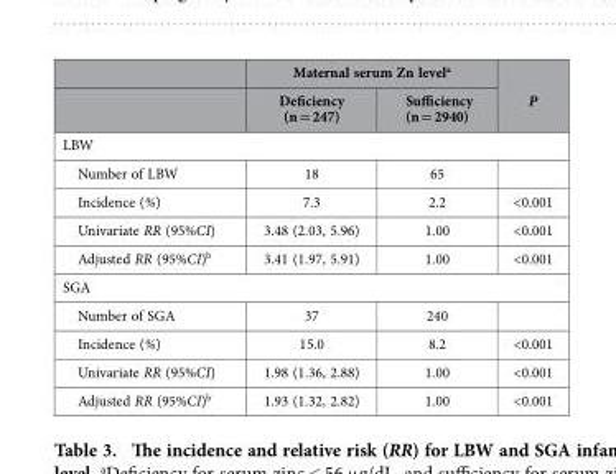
<table><thead><tr><td rowspan="2"></td><td colspan="2">Maternal serum Zn level<sup>a</sup></td><td rowspan="2">P</td></tr><tr><td>Deficiency (n = 247)</td><td>Sufficiency (n = 2940)</td></tr></thead><tbody><tr><td colspan="4">LBW</td></tr><tr><td>Number of LBW</td><td>18</td><td>65</td><td></td></tr><tr><td>Incidence (%)</td><td>7.3</td><td>2.2</td><td>&lt;0.001</td></tr><tr><td>Univariate RR (95%CI)</td><td>3.48 (2.03, 5.96)</td><td>1.00</td><td>&lt;0.001</td></tr><tr><td>Adjusted RR (95%CI)<sup>b</sup></td><td>3.41 (1.97, 5.91)</td><td>1.00</td><td>&lt;0.001</td></tr><tr><td colspan="4">SGA</td></tr><tr><td>Number of SGA</td><td>37</td><td>240</td><td></td></tr><tr><td>Incidence (%)</td><td>15.0</td><td>8.2</td><td>&lt;0.001</td></tr><tr><td>Univariate RR (95%CI)</td><td>1.98 (1.36, 2.88)</td><td>1.00</td><td>&lt;0.001</td></tr><tr><td>Adjusted RR (95%CI)<sup>b</sup></td><td>1.93 (1.32, 2.82)</td><td>1.00</td><td>&lt;0.001</td></tr></tbody></table>